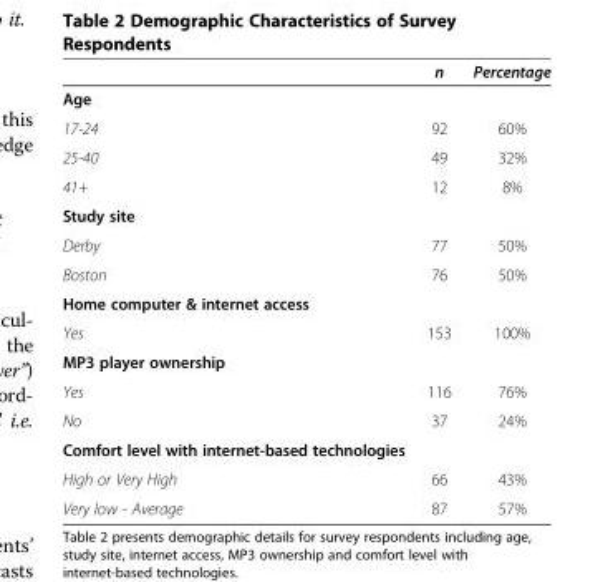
<table><thead><tr><td></td><td>n</td><td>Percentage</td></tr></thead><tbody><tr><td colspan="3">Age</td></tr><tr><td>17-24</td><td>92</td><td>60%</td></tr><tr><td>25-40</td><td>49</td><td>32%</td></tr><tr><td>41+</td><td>12</td><td>8%</td></tr><tr><td colspan="3">Study site</td></tr><tr><td>Derby</td><td>77</td><td>50%</td></tr><tr><td>Boston</td><td>76</td><td>50%</td></tr><tr><td colspan="3">Home computer &amp; internet access</td></tr><tr><td>Yes</td><td>153</td><td>100%</td></tr><tr><td colspan="3">MP3 player ownership</td></tr><tr><td>Yes</td><td>116</td><td>76%</td></tr><tr><td>No</td><td>37</td><td>24%</td></tr><tr><td colspan="3">Comfort level with internet-based technologies</td></tr><tr><td>High or Very High</td><td>66</td><td>43%</td></tr><tr><td>Very low - Average</td><td>87</td><td>57%</td></tr></tbody></table>